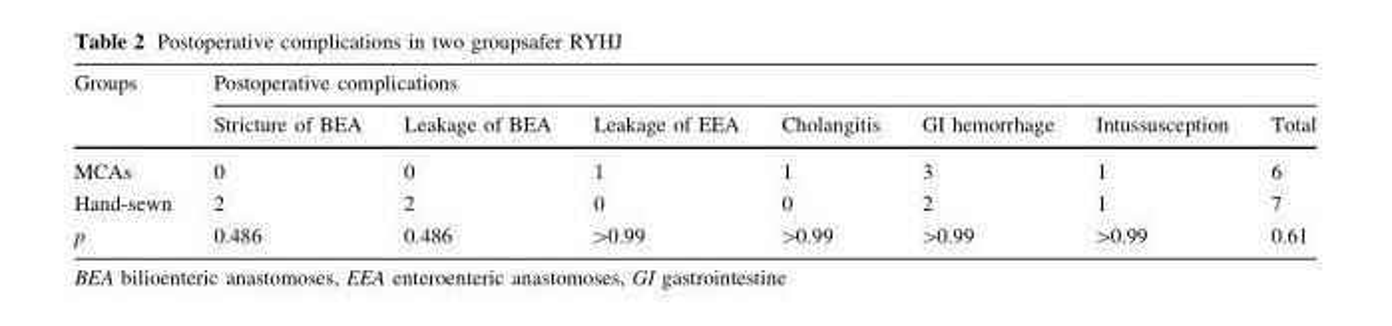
<table><thead><tr><td rowspan="2">Groups</td><td colspan="7">Postoperative complications</td></tr><tr><td>Stricture of BEA</td><td>Leakage of BEA</td><td>Leakage of EEA</td><td>Cholangitis</td><td>GI hemorrhage</td><td>Intussusception</td><td>Total</td></tr></thead><tbody><tr><td>MCAs</td><td>0</td><td>0</td><td>1</td><td>1</td><td>3</td><td>1</td><td>6</td></tr><tr><td>Hand-sewn</td><td>2</td><td>2</td><td>0</td><td>0</td><td>2</td><td>1</td><td>7</td></tr><tr><td>p</td><td>0.486</td><td>0.486</td><td>&gt;0.99</td><td>&gt;0.99</td><td>&gt;0.99</td><td>&gt;0.99</td><td>0.61</td></tr></tbody></table>